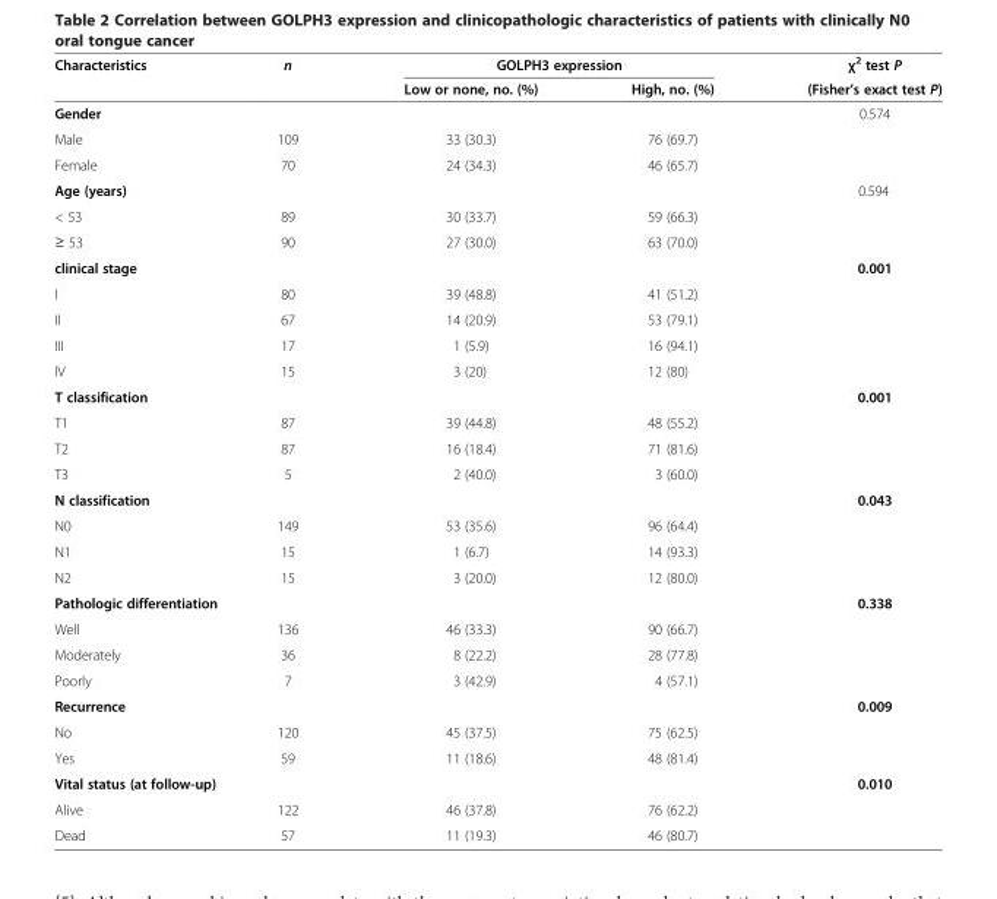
<table><thead><tr><td rowspan="2">Characteristics</td><td rowspan="2">n</td><td colspan="2">GOLPH3 expression</td><td rowspan="2">χ<sup>2</sup> test P (Fisher’s exact test P)</td></tr><tr><td>Low or none, no. (%)</td><td>High, no. (%)</td></tr></thead><tbody><tr><td>Gender</td><td></td><td></td><td></td><td>0.574</td></tr><tr><td>Male</td><td>109</td><td>33 (30.3)</td><td>76 (69.7)</td><td></td></tr><tr><td>Female</td><td>70</td><td>24 (34.3)</td><td>46 (65.7)</td><td></td></tr><tr><td>Age (years)</td><td></td><td></td><td></td><td>0.594</td></tr><tr><td>&lt; 53</td><td>89</td><td>30 (33.7)</td><td>59 (66.3)</td><td></td></tr><tr><td>≥ 53</td><td>90</td><td>27 (30.0)</td><td>63 (70.0)</td><td></td></tr><tr><td colspan="2">clinical stage</td><td></td><td></td><td>0.001</td></tr><tr><td>I</td><td>80</td><td>39 (48.8)</td><td>41 (51.2)</td><td></td></tr><tr><td>II</td><td>67</td><td>14 (20.9)</td><td>53 (79.1)</td><td></td></tr><tr><td>III</td><td>17</td><td>1 (5.9)</td><td>16 (94.1)</td><td></td></tr><tr><td>IV</td><td>15</td><td>3 (20)</td><td>12 (80)</td><td></td></tr><tr><td colspan="2">T classification</td><td></td><td></td><td>0.001</td></tr><tr><td>T1</td><td>87</td><td>39 (44.8)</td><td>48 (55.2)</td><td></td></tr><tr><td>T2</td><td>87</td><td>16 (18.4)</td><td>71 (81.6)</td><td></td></tr><tr><td>T3</td><td>5</td><td>2 (40.0)</td><td>3 (60.0)</td><td></td></tr><tr><td colspan="2">N classification</td><td></td><td></td><td>0.043</td></tr><tr><td>N0</td><td>149</td><td>53 (35.6)</td><td>96 (64.4)</td><td></td></tr><tr><td>N1</td><td>15</td><td>1 (6.7)</td><td>14 (93.3)</td><td></td></tr><tr><td>N2</td><td>15</td><td>3 (20.0)</td><td>12 (80.0)</td><td></td></tr><tr><td colspan="2">Pathologic differentiation</td><td></td><td></td><td>0.338</td></tr><tr><td>Well</td><td>136</td><td>46 (33.3)</td><td>90 (66.7)</td><td></td></tr><tr><td>Moderately</td><td>36</td><td>8 (22.2)</td><td>28 (77.8)</td><td></td></tr><tr><td>Poorly</td><td>7</td><td>3 (42.9)</td><td>4 (57.1)</td><td></td></tr><tr><td>Recurrence</td><td></td><td></td><td></td><td>0.009</td></tr><tr><td>No</td><td>120</td><td>45 (37.5)</td><td>75 (62.5)</td><td></td></tr><tr><td>Yes</td><td>59</td><td>11 (18.6)</td><td>48 (81.4)</td><td></td></tr><tr><td colspan="3">Vital status (at follow-up)</td><td></td><td>0.010</td></tr><tr><td>Alive</td><td>122</td><td>46 (37.8)</td><td>76 (62.2)</td><td></td></tr><tr><td>Dead</td><td>57</td><td>11 (19.3)</td><td>46 (80.7)</td><td></td></tr></tbody></table>